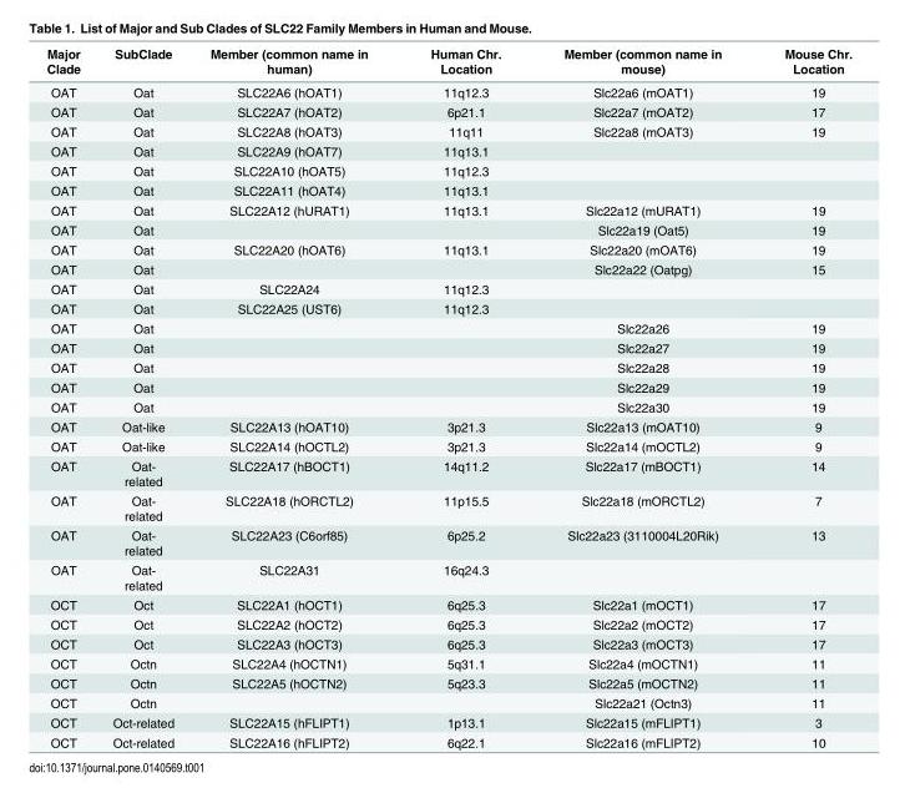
<table><thead><tr><td>Major Clade</td><td>SubClade</td><td>Member (common name in human)</td><td>Human Chr. Location</td><td>Member (common name in mouse)</td><td>Mouse Chr. Location</td></tr></thead><tbody><tr><td>OAT</td><td>Oat</td><td>SLC22A6 (hOAT1)</td><td>11q12.3</td><td>Slc22a6 (mOAT1)</td><td>19</td></tr><tr><td>OAT</td><td>Oat</td><td>SLC22A7 (hOAT2)</td><td>6p21.1</td><td>Slc22a7 (mOAT2)</td><td>17</td></tr><tr><td>OAT</td><td>Oat</td><td>SLC22A8 (hOAT3)</td><td>11q11</td><td>Slc22a8 (mOAT3)</td><td>19</td></tr><tr><td>OAT</td><td>Oat</td><td>SLC22A9 (hOAT7)</td><td>11q13.1</td><td></td><td></td></tr><tr><td>OAT</td><td>Oat</td><td>SLC22A10 (hOAT5)</td><td>11q12.3</td><td></td><td></td></tr><tr><td>OAT</td><td>Oat</td><td>SLC22A11 (hOAT4)</td><td>11q13.1</td><td></td><td></td></tr><tr><td>OAT</td><td>Oat</td><td>SLC22A12 (hURAT1)</td><td>11q13.1</td><td>Slc22a12 (mURAT1)</td><td>19</td></tr><tr><td>OAT</td><td>Oat</td><td></td><td></td><td>Slc22a19 (Oat5)</td><td>19</td></tr><tr><td>OAT</td><td>Oat</td><td>SLC22A20 (hOAT6)</td><td>11q13.1</td><td>Slc22a20 (mOAT6)</td><td>19</td></tr><tr><td>OAT</td><td>Oat</td><td></td><td></td><td>Slc22a22 (Oatpg)</td><td>15</td></tr><tr><td>OAT</td><td>Oat</td><td>SLC22A24</td><td>11q12.3</td><td></td><td></td></tr><tr><td>OAT</td><td>Oat</td><td>SLC22A25 (UST6)</td><td>11q12.3</td><td></td><td></td></tr><tr><td>OAT</td><td>Oat</td><td></td><td></td><td>Slc22a26</td><td>19</td></tr><tr><td>OAT</td><td>Oat</td><td></td><td></td><td>Slc22a27</td><td>19</td></tr><tr><td>OAT</td><td>Oat</td><td></td><td></td><td>Slc22a28</td><td>19</td></tr><tr><td>OAT</td><td>Oat</td><td></td><td></td><td>Slc22a29</td><td>19</td></tr><tr><td>OAT</td><td>Oat</td><td></td><td></td><td>Slc22a30</td><td>19</td></tr><tr><td>OAT</td><td>Oat-like</td><td>SLC22A13 (hOAT10)</td><td>3p21.3</td><td>Slc22a13 (mOAT10)</td><td>9</td></tr><tr><td>OAT</td><td>Oat-like</td><td>SLC22A14 (hOCTL2)</td><td>3p21.3</td><td>Slc22a14 (mOCTL2)</td><td>9</td></tr><tr><td>OAT</td><td>Oat- related</td><td>SLC22A17 (hBOCT1)</td><td>14q11.2</td><td>Slc22a17 (mBOCT1)</td><td>14</td></tr><tr><td>OAT</td><td>Oat- related</td><td>SLC22A18 (hORCTL2)</td><td>11p15.5</td><td>Slc22a18 (mORCTL2)</td><td>7</td></tr><tr><td>OAT</td><td>Oat- related</td><td>SLC22A23 (C6orf85)</td><td>6p25.2</td><td>Slc22a23 (3110004L20Rik)</td><td>13</td></tr><tr><td>OAT</td><td>Oat- related</td><td>SLC22A31</td><td>16q24.3</td><td></td><td></td></tr><tr><td>OCT</td><td>Oct</td><td>SLC22A1 (hOCT1)</td><td>6q25.3</td><td>Slc22a1 (mOCT1)</td><td>17</td></tr><tr><td>OCT</td><td>Oct</td><td>SLC22A2 (hOCT2)</td><td>6q25.3</td><td>Slc22a2 (mOCT2)</td><td>17</td></tr><tr><td>OCT</td><td>Oct</td><td>SLC22A3 (hOCT3)</td><td>6q25.3</td><td>Slc22a3 (mOCT3)</td><td>17</td></tr><tr><td>OCT</td><td>Octn</td><td>SLC22A4 (hOCTN1)</td><td>5q31.1</td><td>Slc22a4 (mOCTN1)</td><td>11</td></tr><tr><td>OCT</td><td>Octn</td><td>SLC22A5 (hOCTN2)</td><td>5q23.3</td><td>Slc22a5 (mOCTN2)</td><td>11</td></tr><tr><td>OCT</td><td>Octn</td><td></td><td></td><td>Slc22a21 (Octn3)</td><td>11</td></tr><tr><td>OCT</td><td>Oct-related</td><td>SLC22A15 (hFLIPT1)</td><td>1p13.1</td><td>Slc22a15 (mFLIPT1)</td><td>3</td></tr><tr><td>OCT</td><td>Oct-related</td><td>SLC22A16 (hFLIPT2)</td><td>6q22.1</td><td>Slc22a16 (mFLIPT2)</td><td>10</td></tr></tbody></table>